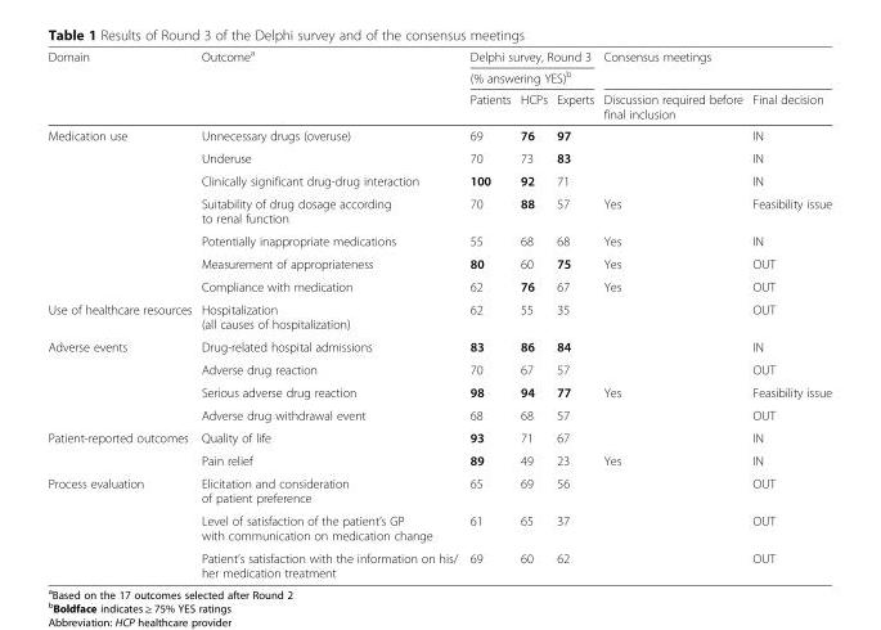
<table><thead><tr><td rowspan="3">Domain</td><td rowspan="3">Outcome<sup>a</sup></td><td rowspan="2" colspan="3">Delphi survey, Round 3 (% answering YES)<sup>b</sup></td><td rowspan="2" colspan="2">Consensus meetings</td></tr><tr></tr><tr><td>Patients</td><td>HCPs</td><td>Experts</td><td>Discussion required before final inclusion</td><td>Final decision</td></tr></thead><tbody><tr><td rowspan="7">Medication use</td><td>Unnecessary drugs (overuse)</td><td>69</td><td>76</td><td>97</td><td></td><td>IN</td></tr><tr><td>Underuse</td><td>70</td><td>73</td><td>83</td><td></td><td>IN</td></tr><tr><td>Clinically significant drug-drug interaction</td><td>100</td><td>92</td><td>71</td><td></td><td>IN</td></tr><tr><td>Suitability of drug dosage according to renal function</td><td>70</td><td>88</td><td>57</td><td>Yes</td><td>Feasibility issue</td></tr><tr><td>Potentially inappropriate medications</td><td>55</td><td>68</td><td>68</td><td>Yes</td><td>IN</td></tr><tr><td>Measurement of appropriateness</td><td>80</td><td>60</td><td>75</td><td>Yes</td><td>OUT</td></tr><tr><td>Compliance with medication</td><td>62</td><td>76</td><td>67</td><td>Yes</td><td>OUT</td></tr><tr><td>Use of healthcare resources</td><td>Hospitalization (all causes of hospitalization)</td><td>62</td><td>55</td><td>35</td><td></td><td>OUT</td></tr><tr><td rowspan="4">Adverse events</td><td>Drug-related hospital admissions</td><td>83</td><td>86</td><td>84</td><td></td><td>IN</td></tr><tr><td>Adverse drug reaction</td><td>70</td><td>67</td><td>57</td><td></td><td>OUT</td></tr><tr><td>Serious adverse drug reaction</td><td>98</td><td>94</td><td>77</td><td>Yes</td><td>Feasibility issue</td></tr><tr><td>Adverse drug withdrawal event</td><td>68</td><td>68</td><td>57</td><td></td><td>OUT</td></tr><tr><td rowspan="2">Patient-reported outcomes</td><td>Quality of life</td><td>93</td><td>71</td><td>67</td><td></td><td>IN</td></tr><tr><td>Pain relief</td><td>89</td><td>49</td><td>23</td><td>Yes</td><td>IN</td></tr><tr><td rowspan="3">Process evaluation</td><td>Elicitation and consideration of patient preference</td><td>65</td><td>69</td><td>56</td><td></td><td>OUT</td></tr><tr><td>Level of satisfaction of the patient’s GP with communication on medication change</td><td>61</td><td>65</td><td>37</td><td></td><td>OUT</td></tr><tr><td>Patient’s satisfaction with the information on his/ her medication treatment</td><td>69</td><td>60</td><td>62</td><td></td><td>OUT</td></tr></tbody></table>